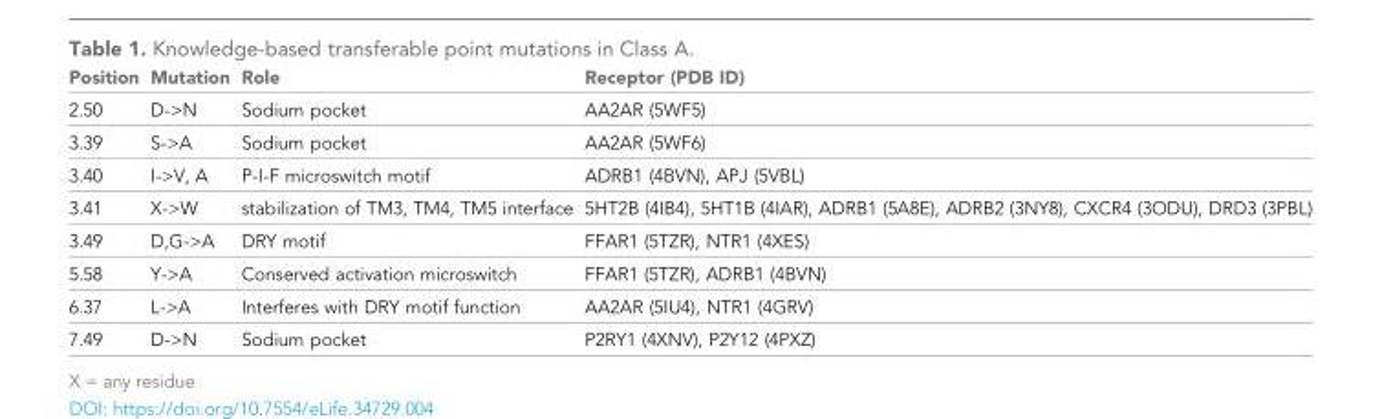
<table><thead><tr><td>Position</td><td>Mutation</td><td>Role</td><td>Receptor (PDB ID)</td></tr></thead><tbody><tr><td>2.50</td><td>D-&gt;N</td><td>Sodium pocket</td><td>AA2AR (5WF5)</td></tr><tr><td>3.39</td><td>S-&gt;A</td><td>Sodium pocket</td><td>AA2AR (5WF6)</td></tr><tr><td>3.40</td><td>I-&gt;V, A</td><td>P-I-F microswitch motif</td><td>ADRB1 (4BVN), APJ (5VBL)</td></tr><tr><td>3.41</td><td>X-&gt;W</td><td>stabilization of TM3, TM4, TM5 interface</td><td>5HT2B (4IB4), 5HT1B (4IAR), ADRB1 (5A8E), ADRB2 (3NY8), CXCR4 (3ODU), DRD3 (3PBL)</td></tr><tr><td>3.49</td><td>D,G-&gt;A</td><td>DRY motif</td><td>FFAR1 (5TZR), NTR1 (4XES)</td></tr><tr><td>5.58</td><td>Y-&gt;A</td><td>Conserved activation microswitch</td><td>FFAR1 (5TZR), ADRB1 (4BVN)</td></tr><tr><td>6.37</td><td>L-&gt;A</td><td>Interferes with DRY motif function</td><td>AA2AR (5IU4), NTR1 (4GRV)</td></tr><tr><td>7.49</td><td>D-&gt;N</td><td>Sodium pocket</td><td>P2RY1 (4XNV), P2Y12 (4PXZ)</td></tr></tbody></table>